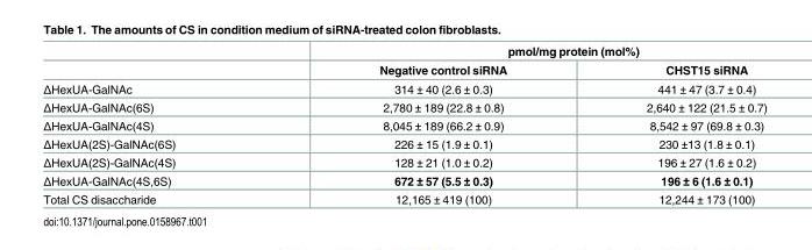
<table><thead><tr><td rowspan="2"></td><td colspan="2">pmol/mg protein (mol%)</td></tr><tr><td>Negative control siRNA</td><td>CHST15 siRNA</td></tr></thead><tbody><tr><td>ΔHexUA-GalNAc</td><td>314 ± 40 (2.6 ± 0.3)</td><td>441 ± 47 (3.7 ± 0.4)</td></tr><tr><td>ΔHexUA-GalNAc(6S)</td><td>2,780 ± 189 (22.8 ± 0.8)</td><td>2,640 ± 122 (21.5 ± 0.7)</td></tr><tr><td>ΔHexUA-GalNAc(4S)</td><td>8,045 ± 189 (66.2 ± 0.9)</td><td>8,542 ± 97 (69.8 ± 0.3)</td></tr><tr><td>ΔHexUA(2S)-GalNAc(6S)</td><td>226 ± 15 (1.9 ± 0.1)</td><td>230 ±13 (1.8 ± 0.1)</td></tr><tr><td>ΔHexUA(2S)-GalNAc(4S)</td><td>128 ± 21 (1.0 ± 0.2)</td><td>196 ± 27 (1.6 ± 0.2)</td></tr><tr><td>ΔHexUA-GalNAc(4S,6S)</td><td>672 ± 57 (5.5 ± 0.3)</td><td>196 ± 6 (1.6 ± 0.1)</td></tr><tr><td>Total CS disaccharide</td><td>12,165 ± 419 (100)</td><td>12,244 ± 173 (100)</td></tr></tbody></table>